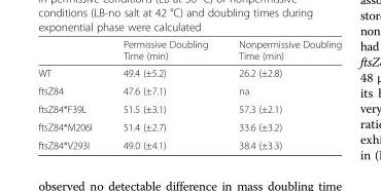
<table><thead><tr><td></td><td>Permissive Doubling Time (min)</td><td>Nonpermissive Doubling Time (min)</td></tr></thead><tbody><tr><td>WT</td><td>49.4 (±5.2)</td><td>26.2 (±2.8)</td></tr><tr><td>ftsZ84</td><td>47.6 (±7.1)</td><td>na</td></tr><tr><td>ftsZ84*F39L</td><td>51.5 (±3.1)</td><td>57.3 (±2.1)</td></tr><tr><td>ftsZ84*M206I</td><td>51.4 (±2.7)</td><td>33.6 (±3.2)</td></tr><tr><td>ftsZ84*V293I</td><td>49.0 (±4.1)</td><td>38.4 (±3.3)</td></tr></tbody></table>